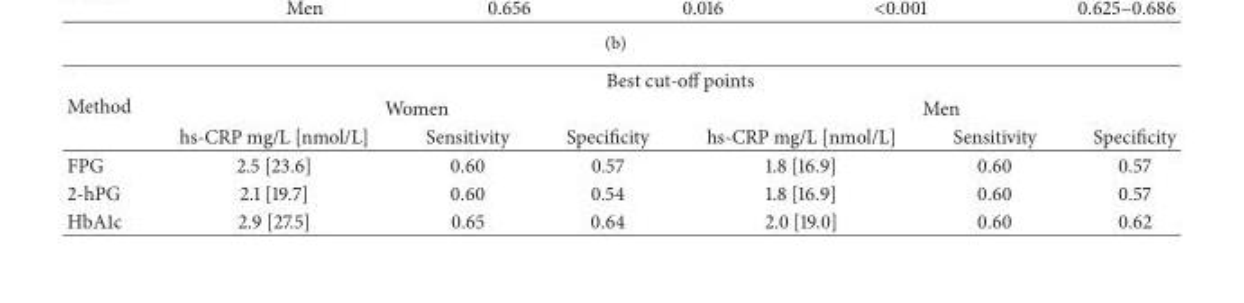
<table><thead><tr><td rowspan="3">Method</td><td colspan="6">Best cut-off points</td></tr><tr><td colspan="3">Women</td><td colspan="3">Men</td></tr><tr><td>hs-CRP mg/L [nmol/L]</td><td>Sensitivity</td><td>Specificity</td><td>hs-CRP mg/L [nmol/L]</td><td>Sensitivity</td><td>Specificity</td></tr></thead><tbody><tr><td>FPG</td><td>2.5 [23.6]</td><td>0.60</td><td>0.57</td><td>1.8 [16.9]</td><td>0.60</td><td>0.57</td></tr><tr><td>2-hPG</td><td>2.1 [19.7]</td><td>0.60</td><td>0.54</td><td>1.8 [16.9]</td><td>0.60</td><td>0.57</td></tr><tr><td>HbA1c</td><td>2.9 [27.5]</td><td>0.65</td><td>0.64</td><td>2.0 [19.0]</td><td>0.60</td><td>0.62</td></tr></tbody></table>